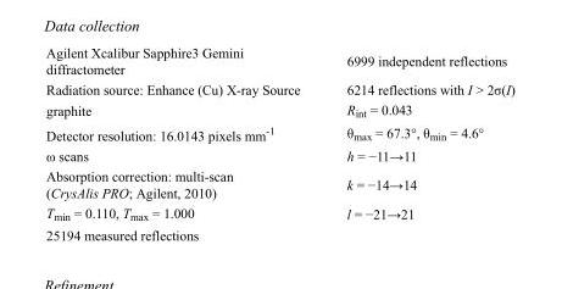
<table><tbody><tr><td>Agilent Xcalibur Sapphire3 Gemini diffractometer</td><td>6999 independent reflections</td></tr><tr><td>Radiation source: Enhance (Cu) X-ray Source</td><td>6214 reflections with I &gt; 2σ(I)</td></tr><tr><td>graphite</td><td>R<sub>int</sub> = 0.043</td></tr><tr><td>Detector resolution: 16.0143 pixels mm<sup>-1</sup></td><td>θ<sub>max</sub> = 67.3°, θ<sub>min</sub> = 4.6°</td></tr><tr><td>ω scans</td><td>h = −11→11</td></tr><tr><td>Absorption correction: multi-scan (CrysAlis PRO; Agilent, 2010)</td><td>k = −14→14</td></tr><tr><td>T<sub>min</sub> = 0.110, T<sub>max</sub> = 1.000</td><td>l = −21→21</td></tr><tr><td>25194 measured reflections</td><td></td></tr></tbody></table>